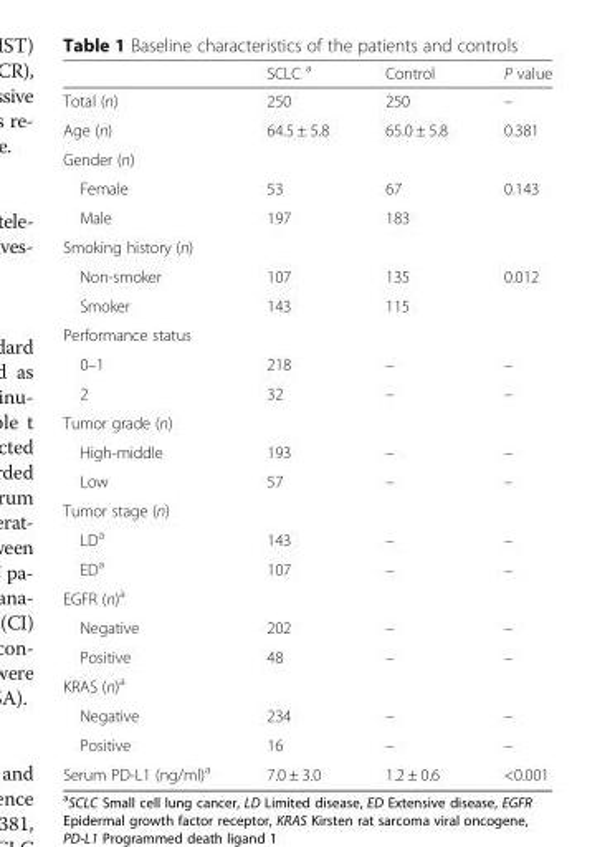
<table><thead><tr><td></td><td>SCLC <sup>a</sup></td><td>Control</td><td>P value</td></tr></thead><tbody><tr><td>Total (n)</td><td>250</td><td>250</td><td>–</td></tr><tr><td>Age (n)</td><td>64.5 ± 5.8</td><td>65.0 ± 5.8</td><td>0.381</td></tr><tr><td colspan="4">Gender (n)</td></tr><tr><td>Female</td><td>53</td><td>67</td><td>0.143</td></tr><tr><td>Male</td><td>197</td><td>183</td><td></td></tr><tr><td colspan="4">Smoking history (n)</td></tr><tr><td>Non-smoker</td><td>107</td><td>135</td><td>0.012</td></tr><tr><td>Smoker</td><td>143</td><td>115</td><td></td></tr><tr><td colspan="4">Performance status</td></tr><tr><td>0–1</td><td>218</td><td>–</td><td>–</td></tr><tr><td>2</td><td>32</td><td>–</td><td>–</td></tr><tr><td colspan="4">Tumor grade (n)</td></tr><tr><td>High-middle</td><td>193</td><td>–</td><td>–</td></tr><tr><td>Low</td><td>57</td><td>–</td><td>–</td></tr><tr><td colspan="4">Tumor stage (n)</td></tr><tr><td>LD<sup>a</sup></td><td>143</td><td>–</td><td>–</td></tr><tr><td>ED<sup>a</sup></td><td>107</td><td>–</td><td>–</td></tr><tr><td colspan="4">EGFR (n)<sup>a</sup></td></tr><tr><td>Negative</td><td>202</td><td>–</td><td>–</td></tr><tr><td>Positive</td><td>48</td><td>–</td><td>–</td></tr><tr><td colspan="4">KRAS (n)<sup>a</sup></td></tr><tr><td>Negative</td><td>234</td><td>–</td><td>–</td></tr><tr><td>Positive</td><td>16</td><td>–</td><td>–</td></tr><tr><td>Serum PD-L1 (ng/ml)<sup>a</sup></td><td>7.0 ± 3.0</td><td>1.2 ± 0.6</td><td>&lt;0.001</td></tr></tbody></table>